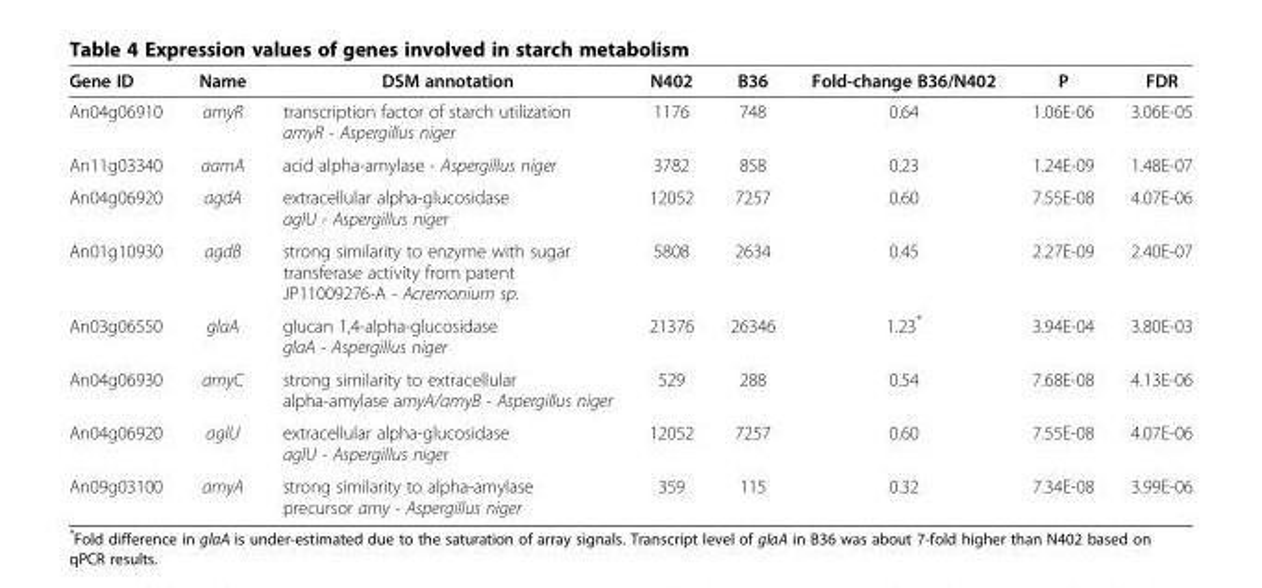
<table><thead><tr><td>Gene ID</td><td>Name</td><td>DSM annotation</td><td>N402</td><td>B36</td><td>Fold-change B36/N402</td><td>P</td><td>FDR</td></tr></thead><tbody><tr><td>An04g06910</td><td>amyR</td><td>transcription factor of starch utilization amyR - Aspergillus niger</td><td>1176</td><td>748</td><td>0.64</td><td>1.06E-06</td><td>3.06E-05</td></tr><tr><td>An11g03340</td><td>aamA</td><td>acid alpha-amylase - Aspergillus niger</td><td>3782</td><td>858</td><td>0.23</td><td>1.24E-09</td><td>1.48E-07</td></tr><tr><td>An04g06920</td><td>agdA</td><td>extracellular alpha-glucosidase aglU - Aspergillus niger</td><td>12052</td><td>7257</td><td>0.60</td><td>7.55E-08</td><td>4.07E-06</td></tr><tr><td>An01g10930</td><td>agdB</td><td>strong similarity to enzyme with sugar transferase activity from patent JP11009276-A - Acremonium sp.</td><td>5808</td><td>2634</td><td>0.45</td><td>2.27E-09</td><td>2.40E-07</td></tr><tr><td>An03g06550</td><td>glaA</td><td>glucan 1,4-alpha-glucosidase glaA - Aspergillus niger</td><td>21376</td><td>26346</td><td>1.23*</td><td>3.94E-04</td><td>3.80E-03</td></tr><tr><td>An04g06930</td><td>amyC</td><td>strong similarity to extracellular alpha-amylase amyA/amyB - Aspergillus niger</td><td>529</td><td>288</td><td>0.54</td><td>7.68E-08</td><td>4.13E-06</td></tr><tr><td>An04g06920</td><td>aglU</td><td>extracellular alpha-glucosidase aglU - Aspergillus niger</td><td>12052</td><td>7257</td><td>0.60</td><td>7.55E-08</td><td>4.07E-06</td></tr><tr><td>An09g03100</td><td>amyA</td><td>strong similarity to alpha-amylase precursor amy - Aspergillus niger</td><td>359</td><td>115</td><td>0.32</td><td>7.34E-08</td><td>3.99E-06</td></tr></tbody></table>